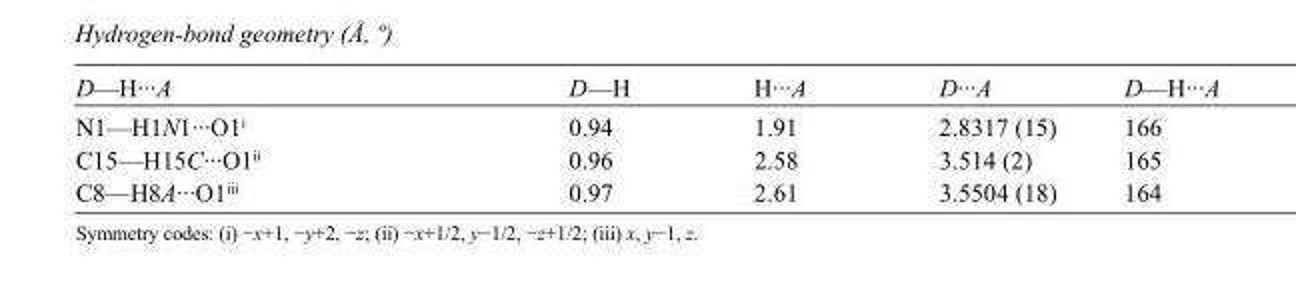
<table><tbody><tr><td>D—H···A</td><td>D—H</td><td>H···A</td><td>D···A</td><td>D—H···A</td></tr><tr><td>N1—H1N1···O1<sup>i</sup></td><td>0.94</td><td>1.91</td><td>2.8317 (15)</td><td>166</td></tr><tr><td>C15—H15C···O1<sup>ii</sup></td><td>0.96</td><td>2.58</td><td>3.514 (2)</td><td>165</td></tr><tr><td>C8—H8A···O1<sup>iii</sup></td><td>0.97</td><td>2.61</td><td>3.5504 (18)</td><td>164</td></tr></tbody></table>